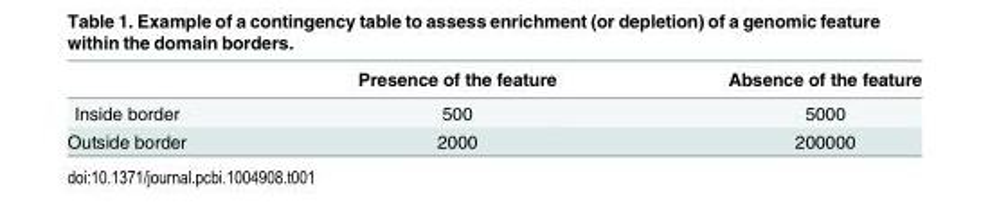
<table><thead><tr><td></td><td>Presence of the feature</td><td>Absence of the feature</td></tr></thead><tbody><tr><td>Inside border</td><td>500</td><td>5000</td></tr><tr><td>Outside border</td><td>2000</td><td>200000</td></tr></tbody></table>